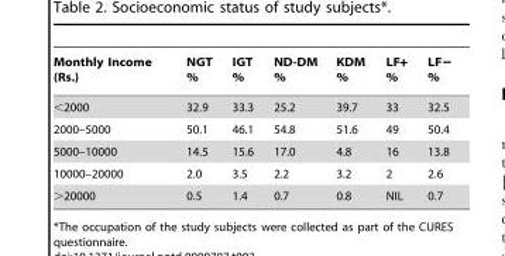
<table><thead><tr><td>Monthly Income (Rs.)</td><td>NGT %</td><td>IGT %</td><td>ND-DM %</td><td>KDM %</td><td>LF+ %</td><td>LF− %</td></tr></thead><tbody><tr><td>&lt;2000</td><td>32.9</td><td>33.3</td><td>25.2</td><td>39.7</td><td>33</td><td>32.5</td></tr><tr><td>2000–5000</td><td>50.1</td><td>46.1</td><td>54.8</td><td>51.6</td><td>49</td><td>50.4</td></tr><tr><td>5000–10000</td><td>14.5</td><td>15.6</td><td>17.0</td><td>4.8</td><td>16</td><td>13.8</td></tr><tr><td>10000–20000</td><td>2.0</td><td>3.5</td><td>2.2</td><td>3.2</td><td>2</td><td>2.6</td></tr><tr><td>&gt;20000</td><td>0.5</td><td>1.4</td><td>0.7</td><td>0.8</td><td>NIL</td><td>0.7</td></tr></tbody></table>